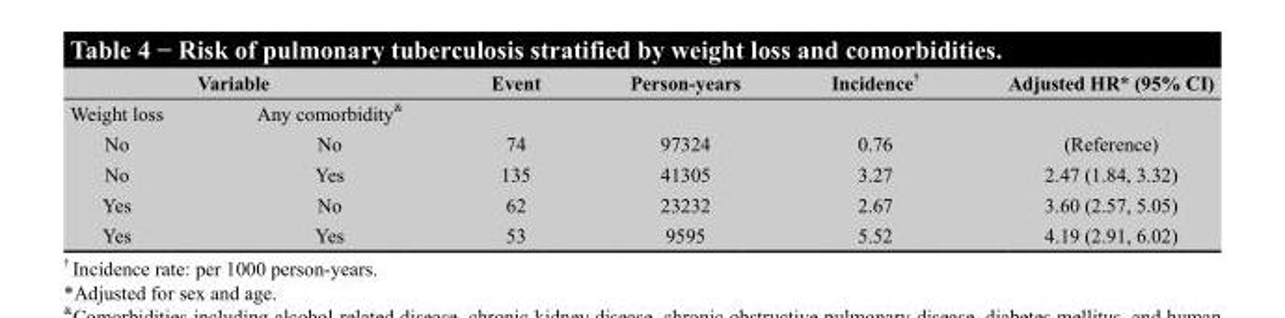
<table><thead><tr><td colspan="2">Variable</td><td rowspan="2">Event</td><td rowspan="2">Person-years</td><td rowspan="2">Incidence †</td><td rowspan="2">Adjusted HR* (95% CI)</td></tr><tr><td>Weight loss</td><td>Any comorbidity &amp;</td></tr></thead><tbody><tr><td>No</td><td>No</td><td>74</td><td>97324</td><td>0.76</td><td>(Reference)</td></tr><tr><td>No</td><td>Yes</td><td>135</td><td>41305</td><td>3.27</td><td>2.47 (1.84, 3.32)</td></tr><tr><td>Yes</td><td>No</td><td>62</td><td>23232</td><td>2.67</td><td>3.60 (2.57, 5.05)</td></tr><tr><td>Yes</td><td>Yes</td><td>53</td><td>9595</td><td>5.52</td><td>4.19 (2.91, 6.02)</td></tr></tbody></table>